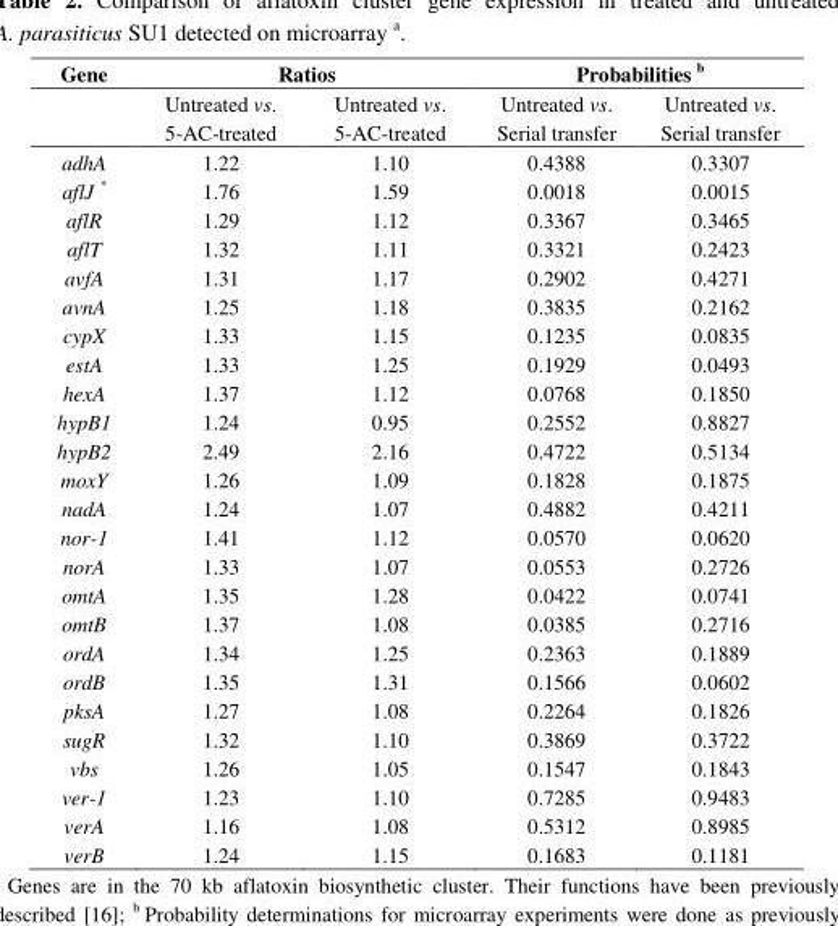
<table><thead><tr><td rowspan="2">Gene</td><td colspan="2">Ratios</td><td colspan="2">Probabilities <sup>b</sup></td></tr><tr><td>Untreated vs. 5-AC-treated</td><td>Untreated vs. 5-AC-treated</td><td>Untreated vs. Serial transfer</td><td>Untreated vs. Serial transfer</td></tr></thead><tbody><tr><td>adhA</td><td>1.22</td><td>1.10</td><td>0.4388</td><td>0.3307</td></tr><tr><td>aflJ *</td><td>1.76</td><td>1.59</td><td>0.0018</td><td>0.0015</td></tr><tr><td>aflR</td><td>1.29</td><td>1.12</td><td>0.3367</td><td>0.3465</td></tr><tr><td>aflT</td><td>1.32</td><td>1.11</td><td>0.3321</td><td>0.2423</td></tr><tr><td>avfA</td><td>1.31</td><td>1.17</td><td>0.2902</td><td>0.4271</td></tr><tr><td>avnA</td><td>1.25</td><td>1.18</td><td>0.3835</td><td>0.2162</td></tr><tr><td>cypX</td><td>1.33</td><td>1.15</td><td>0.1235</td><td>0.0835</td></tr><tr><td>estA</td><td>1.33</td><td>1.25</td><td>0.1929</td><td>0.0493</td></tr><tr><td>hexA</td><td>1.37</td><td>1.12</td><td>0.0768</td><td>0.1850</td></tr><tr><td>hypB1</td><td>1.24</td><td>0.95</td><td>0.2552</td><td>0.8827</td></tr><tr><td>hypB2</td><td>2.49</td><td>2.16</td><td>0.4722</td><td>0.5134</td></tr><tr><td>moxY</td><td>1.26</td><td>1.09</td><td>0.1828</td><td>0.1875</td></tr><tr><td>nadA</td><td>1.24</td><td>1.07</td><td>0.4882</td><td>0.4211</td></tr><tr><td>nor-1</td><td>1.41</td><td>1.12</td><td>0.0570</td><td>0.0620</td></tr><tr><td>norA</td><td>1.33</td><td>1.07</td><td>0.0553</td><td>0.2726</td></tr><tr><td>omtA</td><td>1.35</td><td>1.28</td><td>0.0422</td><td>0.0741</td></tr><tr><td>omtB</td><td>1.37</td><td>1.08</td><td>0.0385</td><td>0.2716</td></tr><tr><td>ordA</td><td>1.34</td><td>1.25</td><td>0.2363</td><td>0.1889</td></tr><tr><td>ordB</td><td>1.35</td><td>1.31</td><td>0.1566</td><td>0.0602</td></tr><tr><td>pksA</td><td>1.27</td><td>1.08</td><td>0.2264</td><td>0.1826</td></tr><tr><td>sugR</td><td>1.32</td><td>1.10</td><td>0.3869</td><td>0.3722</td></tr><tr><td>vbs</td><td>1.26</td><td>1.05</td><td>0.1547</td><td>0.1843</td></tr><tr><td>ver-1</td><td>1.23</td><td>1.10</td><td>0.7285</td><td>0.9483</td></tr><tr><td>verA</td><td>1.16</td><td>1.08</td><td>0.5312</td><td>0.8985</td></tr><tr><td>verB</td><td>1.24</td><td>1.15</td><td>0.1683</td><td>0.1181</td></tr></tbody></table>